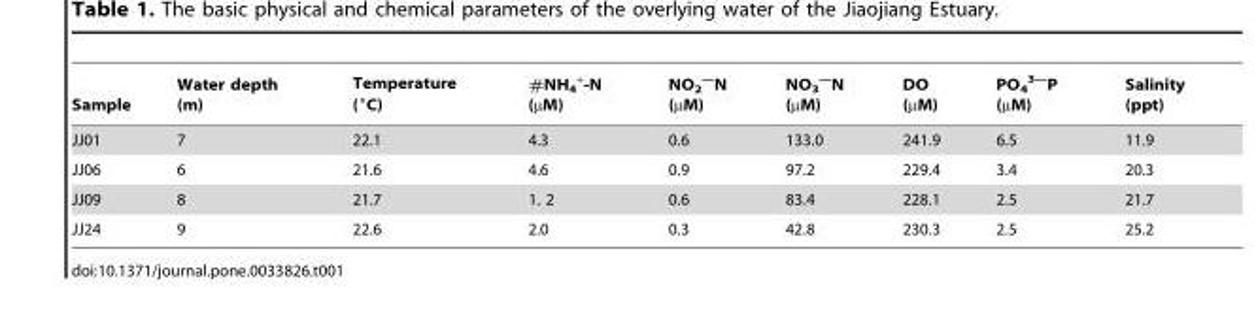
<table><thead><tr><td>Sample</td><td>Water depth (m)</td><td>Temperature (°C)</td><td>#NH<sub>4</sub> <sup>+</sup>-N (µM)</td><td>NO<sub>2</sub> <sup>—</sup>N (µM)</td><td>NO<sub>3</sub> <sup>—</sup>N (µM)</td><td>DO (µM)</td><td>PO<sub>4</sub> <sup>3—</sup>P (µM)</td><td>Salinity (ppt)</td></tr></thead><tbody><tr><td>JJ01</td><td>7</td><td>22.1</td><td>4.3</td><td>0.6</td><td>133.0</td><td>241.9</td><td>6.5</td><td>11.9</td></tr><tr><td>JJ06</td><td>6</td><td>21.6</td><td>4.6</td><td>0.9</td><td>97.2</td><td>229.4</td><td>3.4</td><td>20.3</td></tr><tr><td>JJ09</td><td>8</td><td>21.7</td><td>1. 2</td><td>0.6</td><td>83.4</td><td>228.1</td><td>2.5</td><td>21.7</td></tr><tr><td>JJ24</td><td>9</td><td>22.6</td><td>2.0</td><td>0.3</td><td>42.8</td><td>230.3</td><td>2.5</td><td>25.2</td></tr></tbody></table>